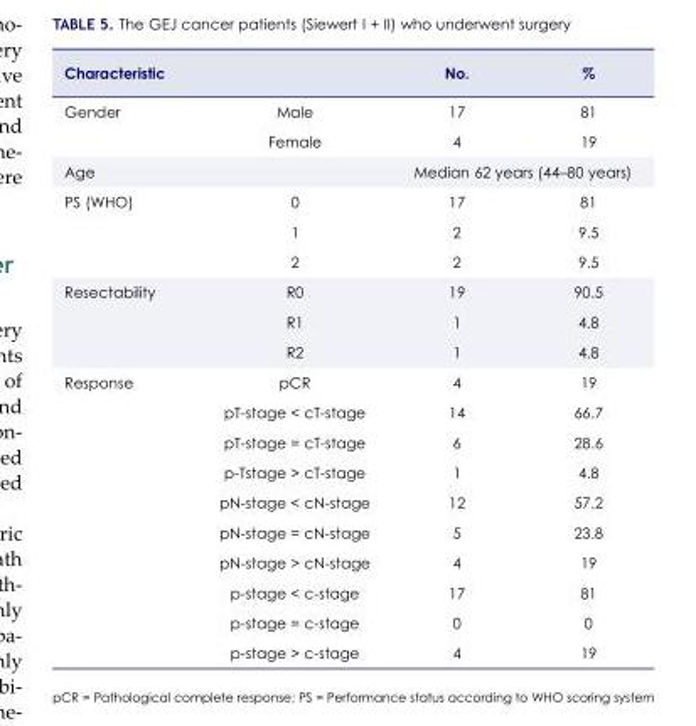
<table><thead><tr><td>Characteristic</td><td></td><td>No.</td><td>%</td></tr></thead><tbody><tr><td rowspan="2">Gender</td><td>Male</td><td>17</td><td>81</td></tr><tr><td>Female</td><td>4</td><td>19</td></tr><tr><td>Age</td><td></td><td colspan="2">Median 62 years (44–80 years)</td></tr><tr><td rowspan="3">PS (WHO)</td><td>0</td><td>17</td><td>81</td></tr><tr><td>1</td><td>2</td><td>9.5</td></tr><tr><td>2</td><td>2</td><td>9.5</td></tr><tr><td rowspan="3">Resectability</td><td>R0</td><td>19</td><td>90.5</td></tr><tr><td>R1</td><td>1</td><td>4.8</td></tr><tr><td>R2</td><td>1</td><td>4.8</td></tr><tr><td rowspan="10">Response</td><td>pCR</td><td>4</td><td>19</td></tr><tr><td>pT-stage &lt; cT-stage</td><td>14</td><td>66.7</td></tr><tr><td>pT-stage = cT-stage</td><td>6</td><td>28.6</td></tr><tr><td>p-Tstage &gt; cT-stage</td><td>1</td><td>4.8</td></tr><tr><td>pN-stage &lt; cN-stage</td><td>12</td><td>57.2</td></tr><tr><td>pN-stage = cN-stage</td><td>5</td><td>23.8</td></tr><tr><td>pN-stage &gt; cN-stage</td><td>4</td><td>19</td></tr><tr><td>p-stage &lt; c-stage</td><td>17</td><td>81</td></tr><tr><td>p-stage = c-stage</td><td>0</td><td>0</td></tr><tr><td>p-stage &gt; c-stage</td><td>4</td><td>19</td></tr></tbody></table>